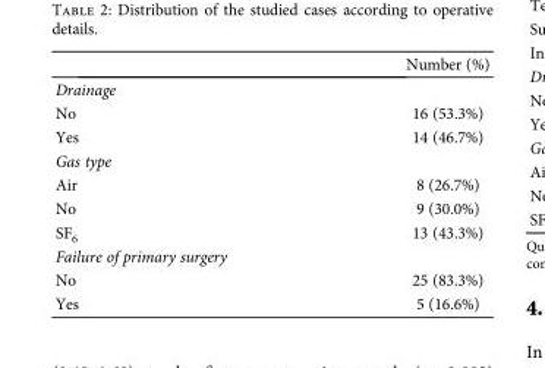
<table><thead><tr><td></td><td>Number (%)</td></tr></thead><tbody><tr><td colspan="2">Drainage</td></tr><tr><td>No</td><td>16 (53.3%)</td></tr><tr><td>Yes</td><td>14 (46.7%)</td></tr><tr><td colspan="2">Gas type</td></tr><tr><td>Air</td><td>8 (26.7%)</td></tr><tr><td>No</td><td>9 (30.0%)</td></tr><tr><td>SF<sub>6</sub></td><td>13 (43.3%)</td></tr><tr><td colspan="2">Failure of primary surgery</td></tr><tr><td>No</td><td>25 (83.3%)</td></tr><tr><td>Yes</td><td>5 (16.6%)</td></tr></tbody></table>